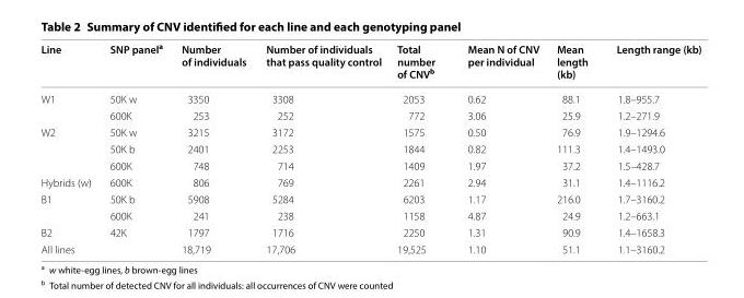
<table><thead><tr><td>Line</td><td>SNP panel<sup>a</sup></td><td>Number of individuals</td><td>Number of individuals that pass quality control</td><td>Total number of CNV<sup>b</sup></td><td>Mean N of CNV per individual</td><td>Mean length (kb)</td><td>Length range (kb)</td></tr></thead><tbody><tr><td rowspan="2">W1</td><td>50K w</td><td>3350</td><td>3308</td><td>2053</td><td>0.62</td><td>88.1</td><td>1.8–955.7</td></tr><tr><td>600K</td><td>253</td><td>252</td><td>772</td><td>3.06</td><td>25.9</td><td>1.2–271.9</td></tr><tr><td rowspan="3">W2</td><td>50K w</td><td>3215</td><td>3172</td><td>1575</td><td>0.50</td><td>76.9</td><td>1.9–1294.6</td></tr><tr><td>50K b</td><td>2401</td><td>2253</td><td>1844</td><td>0.82</td><td>111.3</td><td>1.4–1493.0</td></tr><tr><td>600K</td><td>748</td><td>714</td><td>1409</td><td>1.97</td><td>37.2</td><td>1.5–428.7</td></tr><tr><td>Hybrids (w)</td><td>600K</td><td>806</td><td>769</td><td>2261</td><td>2.94</td><td>31.1</td><td>1.4–1116.2</td></tr><tr><td rowspan="2">B1</td><td>50K b</td><td>5908</td><td>5284</td><td>6203</td><td>1.17</td><td>216.0</td><td>1.7–3160.2</td></tr><tr><td>600K</td><td>241</td><td>238</td><td>1158</td><td>4.87</td><td>24.9</td><td>1.2–663.1</td></tr><tr><td>B2</td><td>42K</td><td>1797</td><td>1716</td><td>2250</td><td>1.31</td><td>90.9</td><td>1.4–1658.3</td></tr><tr><td colspan="2">All lines</td><td>18,719</td><td>17,706</td><td>19,525</td><td>1.10</td><td>51.1</td><td>1.1–3160.2</td></tr></tbody></table>